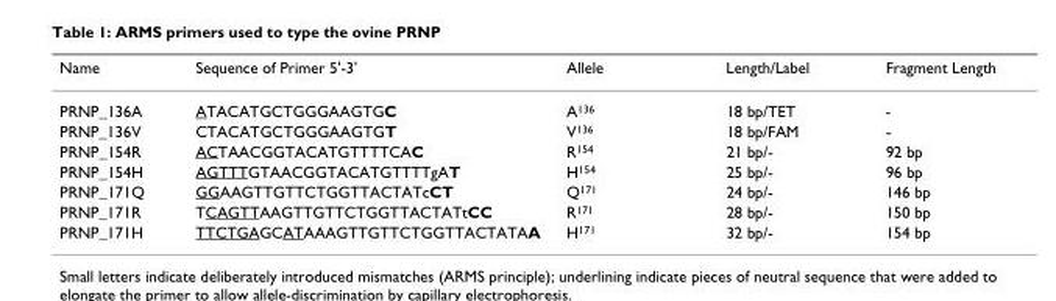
<table><thead><tr><td>Name</td><td>Sequence of Primer 5&#x27;-3&#x27;</td><td>Allele</td><td>Length/Label</td><td>Fragment Length</td></tr></thead><tbody><tr><td>PRNP_136A</td><td>ATACATGCTGGGAAGTGC</td><td>A136</td><td>18 bp/TET</td><td>-</td></tr><tr><td>PRNP_136V</td><td>CTACATGCTGGGAAGTGT</td><td>V136</td><td>18 bp/FAM</td><td>-</td></tr><tr><td>PRNP_154R</td><td>ACTAACGGTACATGTTTTCAC</td><td>R154</td><td>21 bp/-</td><td>92 bp</td></tr><tr><td>PRNP_154H</td><td>AGTTTGTAACGGTACATGTTTTgAT</td><td>H154</td><td>25 bp/-</td><td>96 bp</td></tr><tr><td>PRNP_171Q</td><td>GGAAGTTGTTCTGGTTACTATcCT</td><td>Q171</td><td>24 bp/-</td><td>146 bp</td></tr><tr><td>PRNP_171R</td><td>TCAGTTAAGTTGTTCTGGTTACTATtCC</td><td>R171</td><td>28 bp/-</td><td>150 bp</td></tr><tr><td>PRNP_171H</td><td>TTCTGAGCATAAAGTTGTTCTGGTTACTATAA</td><td>H171</td><td>32 bp/-</td><td>154 bp</td></tr></tbody></table>